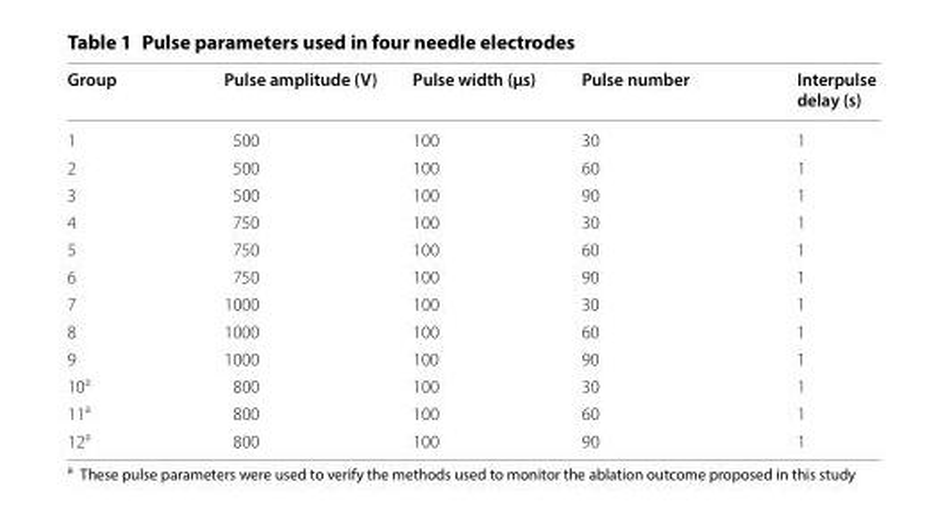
<table><thead><tr><td>Group</td><td>Pulse amplitude (V)</td><td>Pulse width (μs)</td><td>Pulse number</td><td>Interpulse delay (s)</td></tr></thead><tbody><tr><td>1</td><td>500</td><td>100</td><td>30</td><td>1</td></tr><tr><td>2</td><td>500</td><td>100</td><td>60</td><td>1</td></tr><tr><td>3</td><td>500</td><td>100</td><td>90</td><td>1</td></tr><tr><td>4</td><td>750</td><td>100</td><td>30</td><td>1</td></tr><tr><td>5</td><td>750</td><td>100</td><td>60</td><td>1</td></tr><tr><td>6</td><td>750</td><td>100</td><td>90</td><td>1</td></tr><tr><td>7</td><td>1000</td><td>100</td><td>30</td><td>1</td></tr><tr><td>8</td><td>1000</td><td>100</td><td>60</td><td>1</td></tr><tr><td>9</td><td>1000</td><td>100</td><td>90</td><td>1</td></tr><tr><td>10<sup>a</sup></td><td>800</td><td>100</td><td>30</td><td>1</td></tr><tr><td>11<sup>a</sup></td><td>800</td><td>100</td><td>60</td><td>1</td></tr><tr><td>12<sup>a</sup></td><td>800</td><td>100</td><td>90</td><td>1</td></tr></tbody></table>